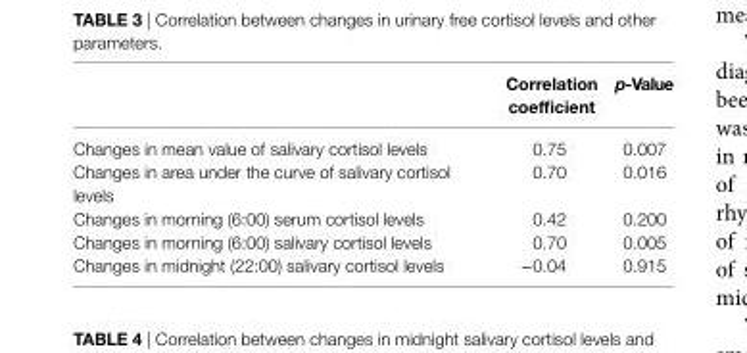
<table><thead><tr><td></td><td>correlation coefficient</td><td>p-Value</td></tr></thead><tbody><tr><td>Changes in mean value of salivary cortisol levels</td><td>0.75</td><td>0.007</td></tr><tr><td>Changes in area under the curve of salivary cortisol levels</td><td>0.70</td><td>0.016</td></tr><tr><td>Changes in morning (6:00) serum cortisol levels</td><td>0.42</td><td>0.200</td></tr><tr><td>Changes in morning (6:00) salivary cortisol levels</td><td>0.70</td><td>0.005</td></tr><tr><td>Changes in midnight (22:00) salivary cortisol levels</td><td>−0.04</td><td>0.915</td></tr></tbody></table>